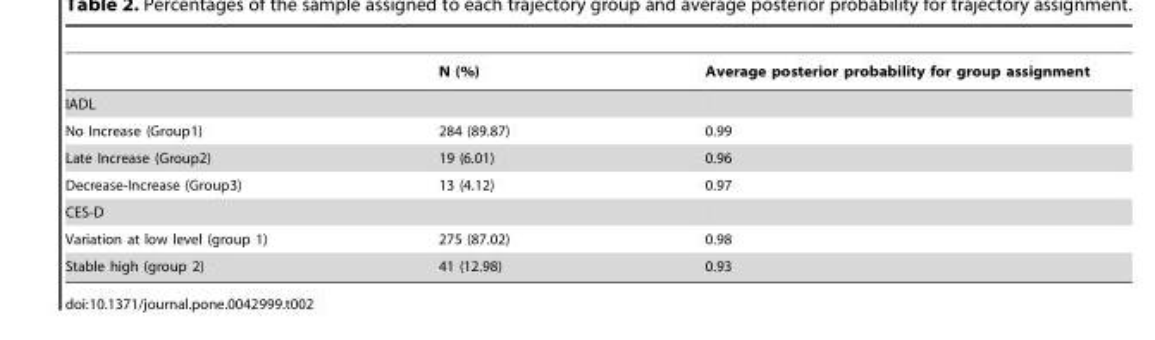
<table><thead><tr><td></td><td>N (%)</td><td>Average posterior probability for group assignment</td></tr></thead><tbody><tr><td colspan="3">IADL</td></tr><tr><td>No Increase (Group1)</td><td>284 (89.87)</td><td>0.99</td></tr><tr><td>Late Increase (Group2)</td><td>19 (6.01)</td><td>0.96</td></tr><tr><td>Decrease-Increase (Group3)</td><td>13 (4.12)</td><td>0.97</td></tr><tr><td colspan="3">CES-D</td></tr><tr><td>Variation at low level (group 1)</td><td>275 (87.02)</td><td>0.98</td></tr><tr><td>Stable high (group 2)</td><td>41 (12.98)</td><td>0.93</td></tr></tbody></table>